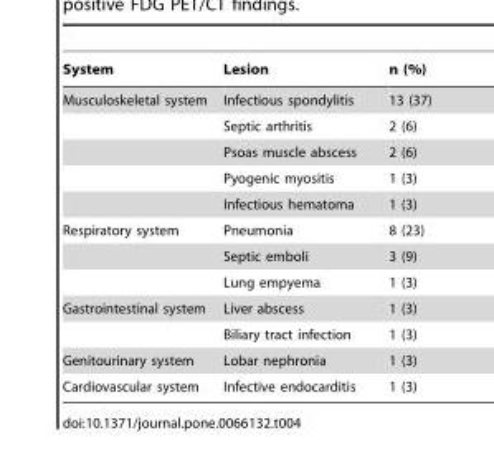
<table><thead><tr><td>System</td><td>Lesion</td><td>n (%)</td></tr></thead><tbody><tr><td rowspan="5">Musculoskeletal system</td><td>Infectious spondylitis</td><td>13 (37)</td></tr><tr><td>Septic arthritis</td><td>2 (6)</td></tr><tr><td>Psoas muscle abscess</td><td>2 (6)</td></tr><tr><td>Pyogenic myositis</td><td>1 (3)</td></tr><tr><td>Infectious hematoma</td><td>1 (3)</td></tr><tr><td rowspan="3">Respiratory system</td><td>Pneumonia</td><td>8 (23)</td></tr><tr><td>Septic emboli</td><td>3 (9)</td></tr><tr><td>Lung empyema</td><td>1 (3)</td></tr><tr><td rowspan="2">Gastrointestinal system</td><td>Liver abscess</td><td>1 (3)</td></tr><tr><td>Biliary tract infection</td><td>1 (3)</td></tr><tr><td>Genitourinary system</td><td>Lobar nephronia</td><td>1 (3)</td></tr><tr><td>Cardiovascular system</td><td>Infective endocarditis</td><td>1 (3)</td></tr></tbody></table>